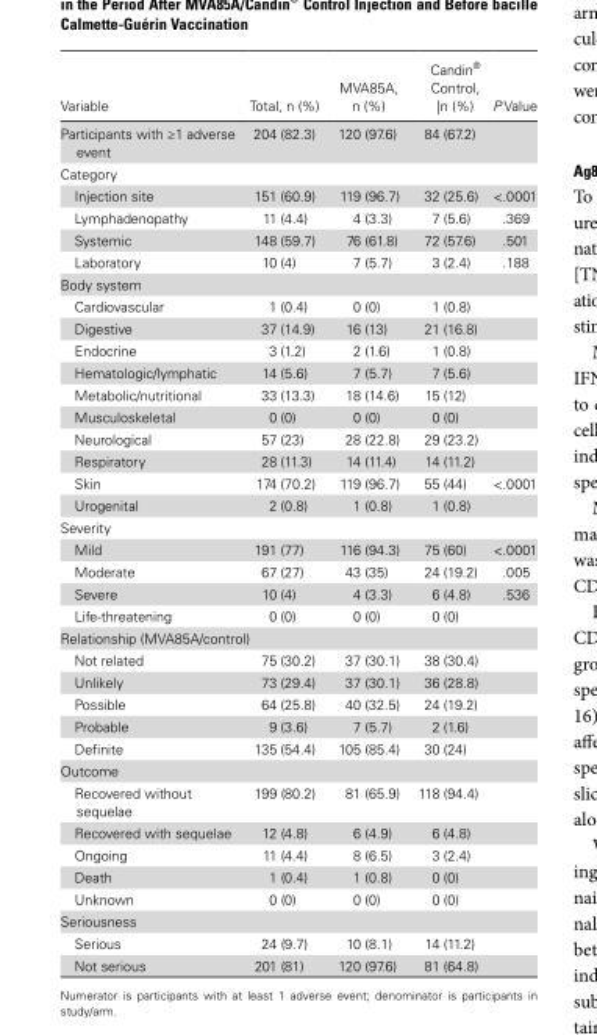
<table><thead><tr><td>Variable</td><td>Total, n (%)</td><td>MVA85A, n (%)</td><td>Candin<sup>®</sup> Control, |n (%)</td><td>P Value</td></tr></thead><tbody><tr><td>Participants with ≥1 adverse event</td><td>204 (82.3)</td><td>120 (97.6)</td><td>84 (67.2)</td><td></td></tr><tr><td colspan="5">Category</td></tr><tr><td>Injection site</td><td>151 (60.9)</td><td>119 (96.7)</td><td>32 (25.6)</td><td>&lt;.0001</td></tr><tr><td>Lymphadenopathy</td><td>11 (4.4)</td><td>4 (3.3)</td><td>7 (5.6)</td><td>.369</td></tr><tr><td>Systemic</td><td>148 (59.7)</td><td>76 (61.8)</td><td>72 (57.6)</td><td>.501</td></tr><tr><td>Laboratory</td><td>10 (4)</td><td>7 (5.7)</td><td>3 (2.4)</td><td>.188</td></tr><tr><td colspan="5">Body system</td></tr><tr><td>Cardiovascular</td><td>1 (0.4)</td><td>0 (0)</td><td>1 (0.8)</td><td></td></tr><tr><td>Digestive</td><td>37 (14.9)</td><td>16 (13)</td><td>21 (16.8)</td><td></td></tr><tr><td>Endocrine</td><td>3 (1.2)</td><td>2 (1.6)</td><td>1 (0.8)</td><td></td></tr><tr><td>Hematologic/lymphatic</td><td>14 (5.6)</td><td>7 (5.7)</td><td>7 (5.6)</td><td></td></tr><tr><td>Metabolic/nutritional</td><td>33 (13.3)</td><td>18 (14.6)</td><td>15 (12)</td><td></td></tr><tr><td>Musculoskeletal</td><td>0 (0)</td><td>0 (0)</td><td>0 (0)</td><td></td></tr><tr><td>Neurological</td><td>57 (23)</td><td>28 (22.8)</td><td>29 (23.2)</td><td></td></tr><tr><td>Respiratory</td><td>28 (11.3)</td><td>14 (11.4)</td><td>14 (11.2)</td><td></td></tr><tr><td>Skin</td><td>174 (70.2)</td><td>119 (96.7)</td><td>55 (44)</td><td>&lt;.0001</td></tr><tr><td>Urogenital</td><td>2 (0.8)</td><td>1 (0.8)</td><td>1 (0.8)</td><td></td></tr><tr><td colspan="5">Severity</td></tr><tr><td>Mild</td><td>191 (77)</td><td>116 (94.3)</td><td>75 (60)</td><td>&lt;.0001</td></tr><tr><td>Moderate</td><td>67 (27)</td><td>43 (35)</td><td>24 (19.2)</td><td>.005</td></tr><tr><td>Severe</td><td>10 (4)</td><td>4 (3.3)</td><td>6 (4.8)</td><td>.536</td></tr><tr><td>Life-threatening</td><td>0 (0)</td><td>0 (0)</td><td>0 (0)</td><td></td></tr><tr><td colspan="5">Relationship (MVA85A/control)</td></tr><tr><td>Not related</td><td>75 (30.2)</td><td>37 (30.1)</td><td>38 (30.4)</td><td></td></tr><tr><td>Unlikely</td><td>73 (29.4)</td><td>37 (30.1)</td><td>36 (28.8)</td><td></td></tr><tr><td>Possible</td><td>64 (25.8)</td><td>40 (32.5)</td><td>24 (19.2)</td><td></td></tr><tr><td>Probable</td><td>9 (3.6)</td><td>7 (5.7)</td><td>2 (1.6)</td><td></td></tr><tr><td>Definite</td><td>135 (54.4)</td><td>105 (85.4)</td><td>30 (24)</td><td></td></tr><tr><td colspan="5">Outcome</td></tr><tr><td>Recovered without sequelae</td><td>199 (80.2)</td><td>81 (65.9)</td><td>118 (94.4)</td><td></td></tr><tr><td>Recovered with sequelae</td><td>12 (4.8)</td><td>6 (4.9)</td><td>6 (4.8)</td><td></td></tr><tr><td>Ongoing</td><td>11 (4.4)</td><td>8 (6.5)</td><td>3 (2.4)</td><td></td></tr><tr><td>Death</td><td>1 (0.4)</td><td>1 (0.8)</td><td>0 (0)</td><td></td></tr><tr><td>Unknown</td><td>0 (0)</td><td>0 (0)</td><td>0 (0)</td><td></td></tr><tr><td colspan="5">Seriousness</td></tr><tr><td>Serious</td><td>24 (9.7)</td><td>10 (8.1)</td><td>14 (11.2)</td><td></td></tr><tr><td>Not serious</td><td>201 (81)</td><td>120 (97.6)</td><td>81 (64.8)</td><td></td></tr></tbody></table>